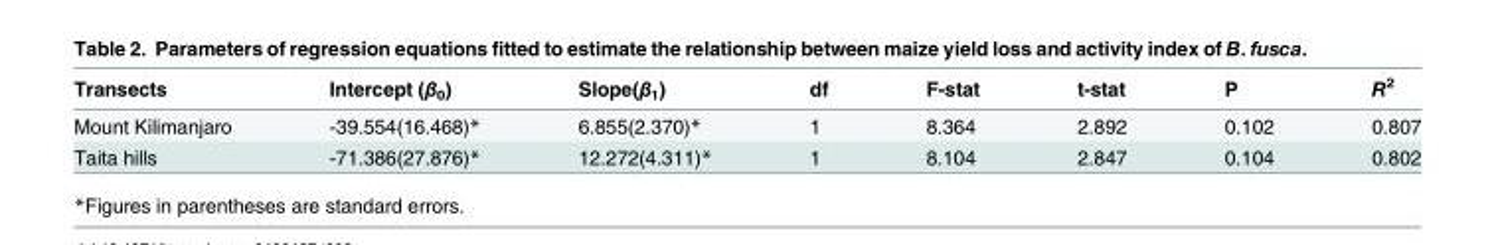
<table><thead><tr><td>Transects</td><td>Intercept (β<sub>0</sub>)</td><td>Slope(β<sub>1</sub>)</td><td>df</td><td>F-stat</td><td>t-stat</td><td>P</td><td>R<sup>2</sup></td></tr></thead><tbody><tr><td>Mount Kilimanjaro</td><td>-39.554(16.468)*</td><td>6.855(2.370)*</td><td>1</td><td>8.364</td><td>2.892</td><td>0.102</td><td>0.807</td></tr><tr><td>Taita hills</td><td>-71.386(27.876)*</td><td>12.272(4.311)*</td><td>1</td><td>8.104</td><td>2.847</td><td>0.104</td><td>0.802</td></tr></tbody></table>